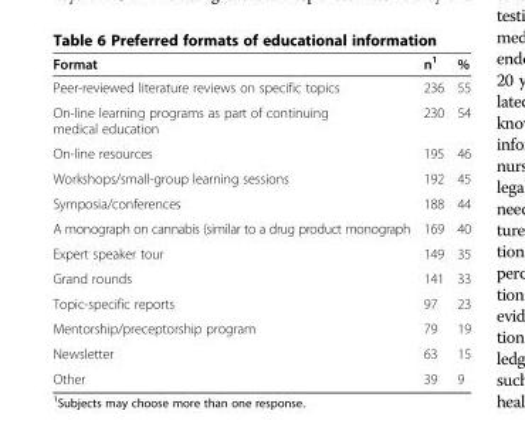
<table><thead><tr><td>Format</td><td>n<sup>1</sup></td><td>%</td></tr></thead><tbody><tr><td>Peer-reviewed literature reviews on specific topics</td><td>236</td><td>55</td></tr><tr><td>On-line learning programs as part of continuing medical education</td><td>230</td><td>54</td></tr><tr><td>On-line resources</td><td>195</td><td>46</td></tr><tr><td>Workshops/small-group learning sessions</td><td>192</td><td>45</td></tr><tr><td>Symposia/conferences</td><td>188</td><td>44</td></tr><tr><td>A monograph on cannabis (similar to a drug product monograph</td><td>169</td><td>40</td></tr><tr><td>Expert speaker tour</td><td>149</td><td>35</td></tr><tr><td>Grand rounds</td><td>141</td><td>33</td></tr><tr><td>Topic-specific reports</td><td>97</td><td>23</td></tr><tr><td>Mentorship/preceptorship program</td><td>79</td><td>19</td></tr><tr><td>Newsletter</td><td>63</td><td>15</td></tr><tr><td>Other</td><td>39</td><td>9</td></tr></tbody></table>